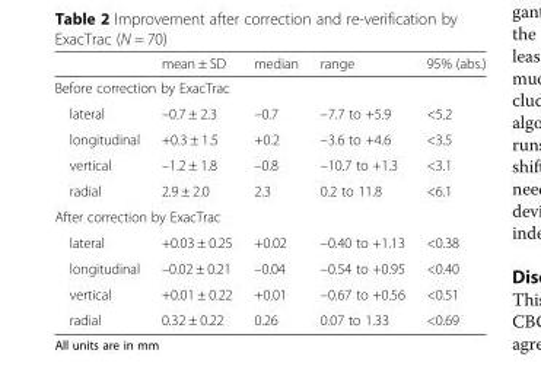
<table><thead><tr><td></td><td>mean ± SD</td><td>median</td><td>range</td><td>95% (abs.)</td></tr></thead><tbody><tr><td colspan="5">Before correction by ExacTrac</td></tr><tr><td>lateral</td><td>–0.7 ± 2.3</td><td>–0.7</td><td>–7.7 to +5.9</td><td>&lt;5.2</td></tr><tr><td>longitudinal</td><td>+0.3 ± 1.5</td><td>+0.2</td><td>–3.6 to +4.6</td><td>&lt;3.5</td></tr><tr><td>vertical</td><td>–1.2 ± 1.8</td><td>–0.8</td><td>–10.7 to +1.3</td><td>&lt;3.1</td></tr><tr><td>radial</td><td>2.9 ± 2.0</td><td>2.3</td><td>0.2 to 11.8</td><td>&lt;6.1</td></tr><tr><td colspan="5">After correction by ExacTrac</td></tr><tr><td>lateral</td><td>+0.03 ± 0.25</td><td>+0.02</td><td>–0.40 to +1.13</td><td>&lt;0.38</td></tr><tr><td>longitudinal</td><td>–0.02 ± 0.21</td><td>–0.04</td><td>–0.54 to +0.95</td><td>&lt;0.40</td></tr><tr><td>vertical</td><td>+0.01 ± 0.22</td><td>+0.01</td><td>–0.67 to +0.56</td><td>&lt;0.51</td></tr><tr><td>radial</td><td>0.32 ± 0.22</td><td>0.26</td><td>0.07 to 1.33</td><td>&lt;0.69</td></tr></tbody></table>